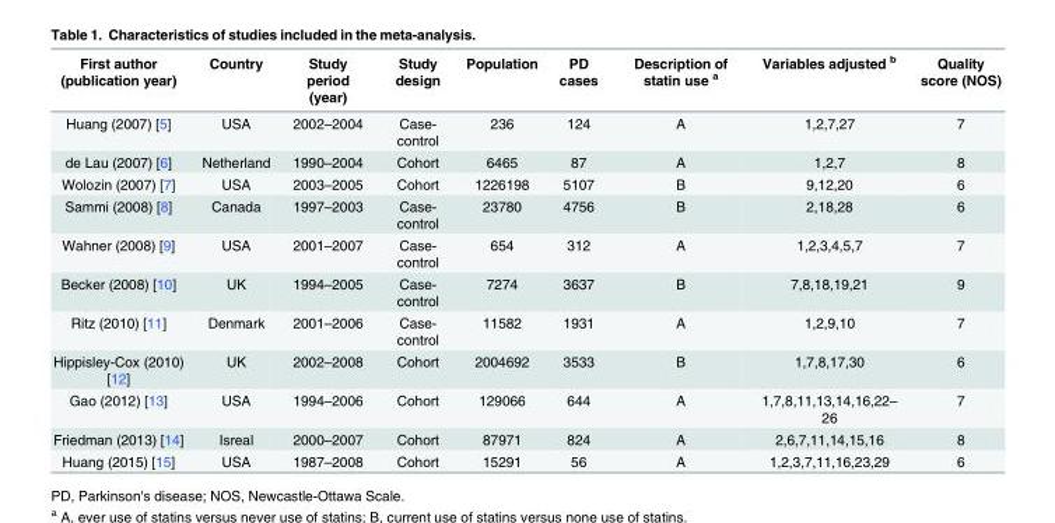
<table><thead><tr><td>First author (publication year)</td><td>Country</td><td>Study period (year)</td><td>Study design</td><td>Population</td><td>PD cases</td><td>Description of statin use <sup>a</sup></td><td>Variables adjusted <sup>b</sup></td><td>Quality score (NOS)</td></tr></thead><tbody><tr><td>Huang (2007) [5]</td><td>USA</td><td>2002–2004</td><td>Case- control</td><td>236</td><td>124</td><td>A</td><td>1,2,7,27</td><td>7</td></tr><tr><td>de Lau (2007) [6]</td><td>Netherland</td><td>1990–2004</td><td>Cohort</td><td>6465</td><td>87</td><td>A</td><td>1,2,7</td><td>8</td></tr><tr><td>Wolozin (2007) [7]</td><td>USA</td><td>2003–2005</td><td>Cohort</td><td>1226198</td><td>5107</td><td>B</td><td>9,12,20</td><td>6</td></tr><tr><td>Sammi (2008) [8]</td><td>Canada</td><td>1997–2003</td><td>Case- control</td><td>23780</td><td>4756</td><td>B</td><td>2,18,28</td><td>6</td></tr><tr><td>Wahner (2008) [9]</td><td>USA</td><td>2001–2007</td><td>Case- control</td><td>654</td><td>312</td><td>A</td><td>1,2,3,4,5,7</td><td>7</td></tr><tr><td>Becker (2008) [10]</td><td>UK</td><td>1994–2005</td><td>Case- control</td><td>7274</td><td>3637</td><td>B</td><td>7,8,18,19,21</td><td>9</td></tr><tr><td>Ritz (2010) [11]</td><td>Denmark</td><td>2001–2006</td><td>Case- control</td><td>11582</td><td>1931</td><td>A</td><td>1,2,9,10</td><td>7</td></tr><tr><td>Hippisley-Cox (2010) [12]</td><td>UK</td><td>2002–2008</td><td>Cohort</td><td>2004692</td><td>3533</td><td>B</td><td>1,7,8,17,30</td><td>6</td></tr><tr><td>Gao (2012) [13]</td><td>USA</td><td>1994–2006</td><td>Cohort</td><td>129066</td><td>644</td><td>A</td><td>1,7,8,11,13,14,16,22– 26</td><td>7</td></tr><tr><td>Friedman (2013) [14]</td><td>Isreal</td><td>2000–2007</td><td>Cohort</td><td>87971</td><td>824</td><td>A</td><td>2,6,7,11,14,15,16</td><td>8</td></tr><tr><td>Huang (2015) [15]</td><td>USA</td><td>1987–2008</td><td>Cohort</td><td>15291</td><td>56</td><td>A</td><td>1,2,3,7,11,16,23,29</td><td>6</td></tr></tbody></table>